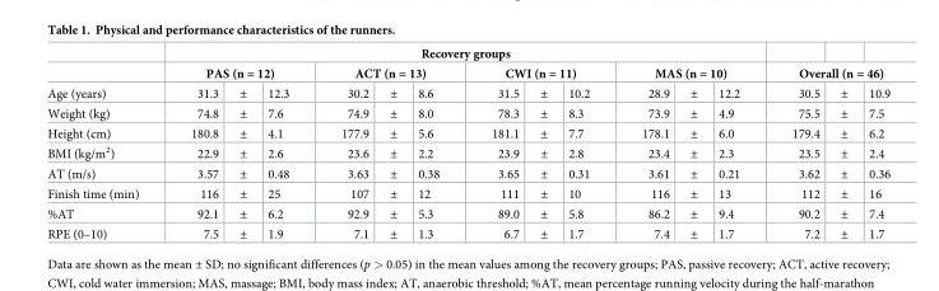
<table><thead><tr><td rowspan="3">Age (years)</td><td colspan="12">Recovery groups</td><td></td><td></td><td></td></tr><tr><td colspan="3">PAS (n = 12)</td><td colspan="3">ACT (n = 13)</td><td colspan="3">CWI (n = 11)</td><td colspan="3">MAS (n = 10)</td><td colspan="3">Overall (n = 46)</td></tr><tr><td>31.3</td><td>±</td><td>12.3</td><td>30.2</td><td>±</td><td>8.6</td><td>31.5</td><td>±</td><td>10.2</td><td>28.9</td><td>±</td><td>12.2</td><td>30.5</td><td>±</td><td>10.9</td></tr></thead><tbody><tr><td>Weight (kg)</td><td>74.8</td><td>±</td><td>7.6</td><td>74.9</td><td>±</td><td>8.0</td><td>78.3</td><td>±</td><td>8.3</td><td>73.9</td><td>±</td><td>4.9</td><td>75.5</td><td>±</td><td>7.5</td></tr><tr><td>Height (cm)</td><td>180.8</td><td>±</td><td>4.1</td><td>177.9</td><td>±</td><td>5.6</td><td>181.1</td><td>±</td><td>7.7</td><td>178.1</td><td>±</td><td>6.0</td><td>179.4</td><td>±</td><td>6.2</td></tr><tr><td>BMI (kg/m<sup>2</sup>)</td><td>22.9</td><td>±</td><td>2.6</td><td>23.6</td><td>±</td><td>2.2</td><td>23.9</td><td>±</td><td>2.8</td><td>23.4</td><td>±</td><td>2.3</td><td>23.5</td><td>±</td><td>2.4</td></tr><tr><td>AT (m/s)</td><td>3.57</td><td>±</td><td>0.48</td><td>3.63</td><td>±</td><td>0.38</td><td>3.65</td><td>±</td><td>0.31</td><td>3.61</td><td>±</td><td>0.21</td><td>3.62</td><td>±</td><td>0.36</td></tr><tr><td>Finish time (min)</td><td>116</td><td>±</td><td>25</td><td>107</td><td>±</td><td>12</td><td>111</td><td>±</td><td>10</td><td>116</td><td>±</td><td>13</td><td>112</td><td>±</td><td>16</td></tr><tr><td>%AT</td><td>92.1</td><td>±</td><td>6.2</td><td>92.9</td><td>±</td><td>5.3</td><td>89.0</td><td>±</td><td>5.8</td><td>86.2</td><td>±</td><td>9.4</td><td>90.2</td><td>±</td><td>7.4</td></tr><tr><td>RPE (0–10)</td><td>7.5</td><td>±</td><td>1.9</td><td>7.1</td><td>±</td><td>1.3</td><td>6.7</td><td>±</td><td>1.7</td><td>7.4</td><td>±</td><td>1.7</td><td>7.2</td><td>±</td><td>1.7</td></tr></tbody></table>